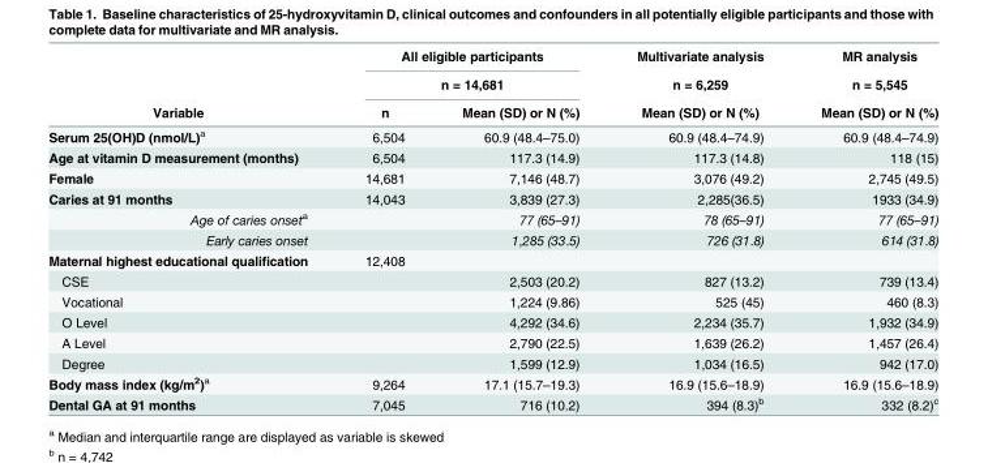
<table><thead><tr><td rowspan="3">Variable</td><td rowspan="2" colspan="2">All eligible participants n = 14,681</td><td rowspan="3">Multivariate analysis n = 6,259 Mean (SD) or N (%)</td><td rowspan="3">MR analysis n = 5,545 Mean (SD) or N (%)</td></tr><tr></tr><tr><td>n</td><td>Mean (SD) or N (%)</td></tr></thead><tbody><tr><td>Serum 25(OH)D (nmol/L)<sup>a</sup></td><td>6,504</td><td>60.9 (48.4–75.0)</td><td>60.9 (48.4–74.9)</td><td>60.9 (48.4–74.9)</td></tr><tr><td>Age at vitamin D measurement (months)</td><td>6,504</td><td>117.3 (14.9)</td><td>117.3 (14.8)</td><td>118 (15)</td></tr><tr><td>Female</td><td>14,681</td><td>7,146 (48.7)</td><td>3,076 (49.2)</td><td>2,745 (49.5)</td></tr><tr><td>Caries at 91 months</td><td>14,043</td><td>3,839 (27.3)</td><td>2,285(36.5)</td><td>1933 (34.9)</td></tr><tr><td>Age of caries onset<sup>a</sup></td><td></td><td>77 (65–91)</td><td>78 (65–91)</td><td>77 (65–91)</td></tr><tr><td>Early caries onset</td><td></td><td>1,285 (33.5)</td><td>726 (31.8)</td><td>614 (31.8)</td></tr><tr><td>Maternal highest educational qualification</td><td>12,408</td><td></td><td></td><td></td></tr><tr><td>CSE</td><td></td><td>2,503 (20.2)</td><td>827 (13.2)</td><td>739 (13.4)</td></tr><tr><td>Vocational</td><td></td><td>1,224 (9.86)</td><td>525 (45)</td><td>460 (8.3)</td></tr><tr><td>O Level</td><td></td><td>4,292 (34.6)</td><td>2,234 (35.7)</td><td>1,932 (34.9)</td></tr><tr><td>A Level</td><td></td><td>2,790 (22.5)</td><td>1,639 (26.2)</td><td>1,457 (26.4)</td></tr><tr><td>Degree</td><td></td><td>1,599 (12.9)</td><td>1,034 (16.5)</td><td>942 (17.0)</td></tr><tr><td>Body mass index (kg/m<sup>2</sup>)<sup>a</sup></td><td>9,264</td><td>17.1 (15.7–19.3)</td><td>16.9 (15.6–18.9)</td><td>16.9 (15.6–18.9)</td></tr><tr><td>Dental GA at 91 months</td><td>7,045</td><td>716 (10.2)</td><td>394 (8.3)<sup>b</sup></td><td>332 (8.2)<sup>c</sup></td></tr></tbody></table>